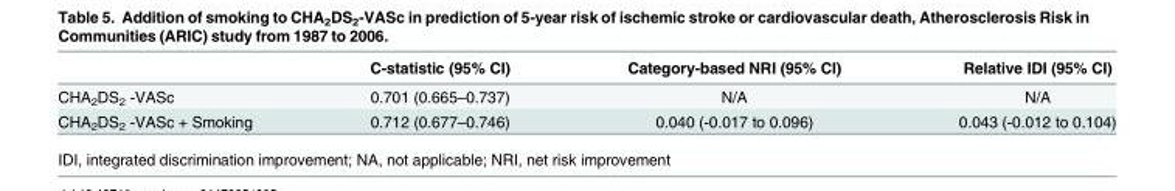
<table><thead><tr><td></td><td>C-statistic (95% CI)</td><td>Category-based NRI (95% CI)</td><td>Relative IDI (95% CI)</td></tr></thead><tbody><tr><td>CHA<sub>2</sub>DS<sub>2</sub> -VASc</td><td>0.701 (0.665–0.737)</td><td>N/A</td><td>N/A</td></tr><tr><td>CHA<sub>2</sub>DS<sub>2</sub> -VASc + Smoking</td><td>0.712 (0.677–0.746)</td><td>0.040 (-0.017 to 0.096)</td><td>0.043 (-0.012 to 0.104)</td></tr></tbody></table>